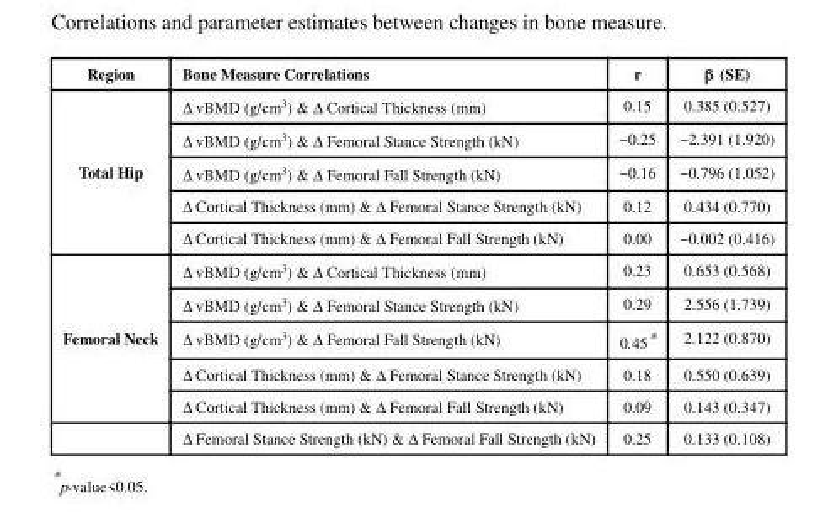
<table><thead><tr><td>Region</td><td>Bone Measure Correlations</td><td>r</td><td>β (SE)</td></tr></thead><tbody><tr><td rowspan="5">Total Hip</td><td>Δ vBMD (g/cm<sup>3</sup>) &amp; Δ Cortical Thickness (mm)</td><td>0.15</td><td>0.385 (0.527)</td></tr><tr><td>Δ vBMD (g/cm<sup>3</sup>) &amp; Δ Femoral Stance Strength (kN)</td><td>−0.25</td><td>−2.391 (1.920)</td></tr><tr><td>Δ vBMD (g/cm<sup>3</sup>) &amp; Δ Femoral Fall Strength (kN)</td><td>−0.16</td><td>−0.796 (1.052)</td></tr><tr><td>Δ Cortical Thickness (mm) &amp; Δ Femoral Stance Strength (kN)</td><td>0.12</td><td>0.434 (0.770)</td></tr><tr><td>Δ Cortical Thickness (mm) &amp; Δ Femoral Fall Strength (kN)</td><td>0.00</td><td>−0.002 (0.416)</td></tr><tr><td rowspan="6">Femoral Neck</td><td>Δ vBMD (g/cm<sup>3</sup>) &amp; Δ Cortical Thickness (mm)</td><td>0.23</td><td>0.653 (0.568)</td></tr><tr><td>Δ vBMD (g/cm<sup>3</sup>) &amp; Δ Femoral Stance Strength (kN)</td><td>0.29</td><td>2.556 (1.739)</td></tr><tr><td>Δ vBMD (g/cm<sup>3</sup>) &amp; Δ Femoral Fall Strength (kN)</td><td>0.45*</td><td>2.122 (0.870)</td></tr><tr><td>Δ Cortical Thickness (mm) &amp; Δ Femoral Stance Strength (kN)</td><td>0.18</td><td>0.550 (0.639)</td></tr><tr><td>Δ Cortical Thickness (mm) &amp; Δ Femoral Fall Strength (kN)</td><td>0.09</td><td>0.143 (0.347)</td></tr><tr><td>Δ Femoral Stance Strength (kN) &amp; Δ Femoral Fall Strength (kN)</td><td>0.25</td><td>0.133 (0.108)</td></tr></tbody></table>